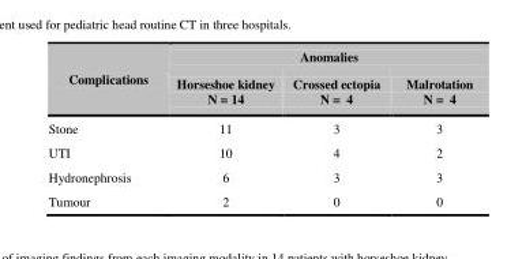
<table><thead><tr><td rowspan="2">Complications</td><td colspan="3">Anomalies</td></tr><tr><td>Horseshoe kidney N = 14</td><td>Crossed ectopia N = 4</td><td>Malrotation N = 4</td></tr></thead><tbody><tr><td>Stone</td><td>11</td><td>3</td><td>3</td></tr><tr><td>UTI</td><td>10</td><td>4</td><td>2</td></tr><tr><td>Hydronephrosis</td><td>6</td><td>3</td><td>3</td></tr><tr><td>Tumour</td><td>2</td><td>0</td><td>0</td></tr></tbody></table>